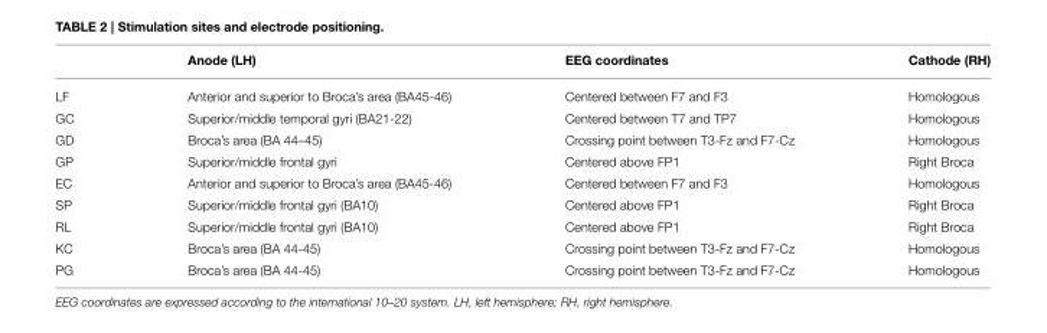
<table><thead><tr><td></td><td>Anode (LH)</td><td>EEG coordinates</td><td>Cathode (RH)</td></tr></thead><tbody><tr><td>LF</td><td>Anterior and superior to Broca’s area (BA45-46)</td><td>Centered between F7 and F3</td><td>Homologous</td></tr><tr><td>GC</td><td>Superior/middle temporal gyri (BA21-22)</td><td>Centered between T7 and TP7</td><td>Homologous</td></tr><tr><td>GD</td><td>Broca’s area (BA 44–45)</td><td>Crossing point between T3-Fz and F7-Cz</td><td>Homologous</td></tr><tr><td>GP</td><td>Superior/middle frontal gyri</td><td>Centered above FP1</td><td>Right Broca</td></tr><tr><td>EC</td><td>Anterior and superior to Broca’s area (BA45-46)</td><td>Centered between F7 and F3</td><td>Homologous</td></tr><tr><td>SP</td><td>Superior/middle frontal gyri (BA10)</td><td>Centered above FP1</td><td>Right Broca</td></tr><tr><td>RL</td><td>Superior/middle frontal gyri (BA10)</td><td>Centered above FP1</td><td>Right Broca</td></tr><tr><td>KC</td><td>Broca’s area (BA 44-45)</td><td>Crossing point between T3-Fz and F7-Cz</td><td>Homologous</td></tr><tr><td>PG</td><td>Broca’s area (BA 44-45)</td><td>Crossing point between T3-Fz and F7-Cz</td><td>Homologous</td></tr></tbody></table>